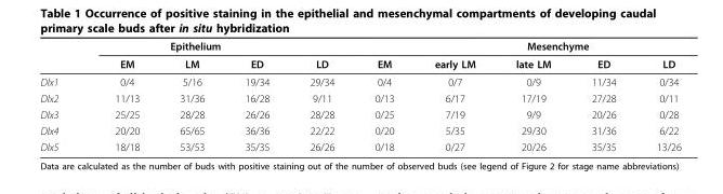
<table><thead><tr><td colspan="5">Epithelium</td><td rowspan="2">EM</td><td colspan="4">Mesenchyme</td></tr><tr><td></td><td>EM</td><td>LM</td><td>ED</td><td>LD</td><td>early LM</td><td>late LM</td><td>ED</td><td>LD</td></tr></thead><tbody><tr><td>Dlx1</td><td>0/4</td><td>5/16</td><td>19/34</td><td>29/34</td><td>0/4</td><td>0/7</td><td>0/9</td><td>11/34</td><td>0/34</td></tr><tr><td>Dlx2</td><td>11/13</td><td>31/36</td><td>16/28</td><td>9/11</td><td>0/13</td><td>6/17</td><td>17/19</td><td>27/28</td><td>0/11</td></tr><tr><td>Dlx3</td><td>25/25</td><td>28/28</td><td>26/26</td><td>28/28</td><td>0/25</td><td>7/19</td><td>9/9</td><td>20/26</td><td>0/28</td></tr><tr><td>Dlx4</td><td>20/20</td><td>65/65</td><td>36/36</td><td>22/22</td><td>0/20</td><td>5/35</td><td>29/30</td><td>31/36</td><td>6/22</td></tr><tr><td>Dlx5</td><td>18/18</td><td>53/53</td><td>35/35</td><td>26/26</td><td>0/18</td><td>0/27</td><td>20/26</td><td>35/35</td><td>13/26</td></tr></tbody></table>